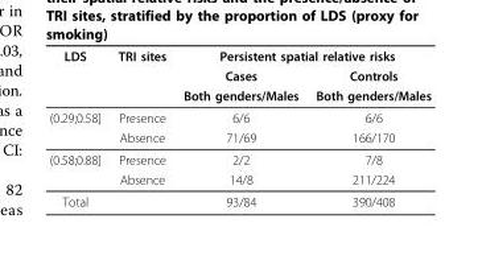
<table><thead><tr><td rowspan="3">LDS</td><td rowspan="3">TRI sites</td><td colspan="2">Persistent spatial relative risks</td></tr><tr><td rowspan="2">Cases Both genders/Males</td><td rowspan="2">Controls Both genders/Males</td></tr><tr></tr></thead><tbody><tr><td rowspan="2">(0.29;0.58]</td><td>Presence</td><td>6/6</td><td>6/6</td></tr><tr><td>Absence</td><td>71/69</td><td>166/170</td></tr><tr><td rowspan="2">(0.58;0.88]</td><td>Presence</td><td>2/2</td><td>7/8</td></tr><tr><td>Absence</td><td>14/8</td><td>211/224</td></tr><tr><td>Total</td><td></td><td>93/84</td><td>390/408</td></tr></tbody></table>